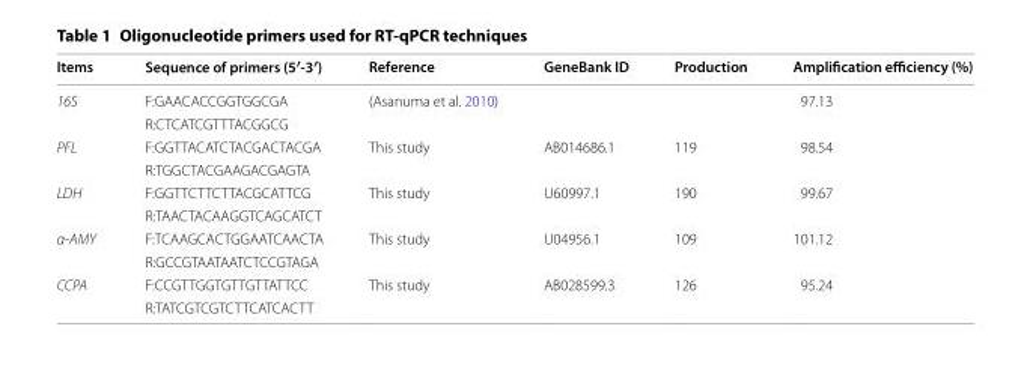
<table><thead><tr><td>Items</td><td>Sequence of primers (5′-3′)</td><td>Reference</td><td>GeneBank ID</td><td>Production</td><td>Amplification efficiency (%)</td></tr></thead><tbody><tr><td rowspan="2">16S</td><td>F:GAACACCGGTGGCGA</td><td>(Asanuma et al. 2010)</td><td></td><td></td><td>97.13</td></tr><tr><td>R:CTCATCGTTTACGGCG</td><td></td><td></td><td></td><td></td></tr><tr><td rowspan="2">PFL</td><td>F:GGTTACATCTACGACTACGA</td><td>This study</td><td>AB014686.1</td><td>119</td><td>98.54</td></tr><tr><td>R:TGGCTACGAAGACGAGTA</td><td></td><td></td><td></td><td></td></tr><tr><td rowspan="2">LDH</td><td>F:GGTTCTTCTTACGCATTCG</td><td>This study</td><td>U60997.1</td><td>190</td><td>99.67</td></tr><tr><td>R:TAACTACAAGGTCAGCATCT</td><td></td><td></td><td></td><td></td></tr><tr><td rowspan="2">α-AMY</td><td>F:TCAAGCACTGGAATCAACTA</td><td>This study</td><td>U04956.1</td><td>109</td><td>101.12</td></tr><tr><td>R:GCCGTAATAATCTCCGTAGA</td><td></td><td></td><td></td><td></td></tr><tr><td rowspan="2">CCPA</td><td>F:CCGTTGGTGTTGTTATTCC</td><td>This study</td><td>AB028599.3</td><td>126</td><td>95.24</td></tr><tr><td>R:TATCGTCGTCTTCATCACTT</td><td></td><td></td><td></td><td></td></tr></tbody></table>